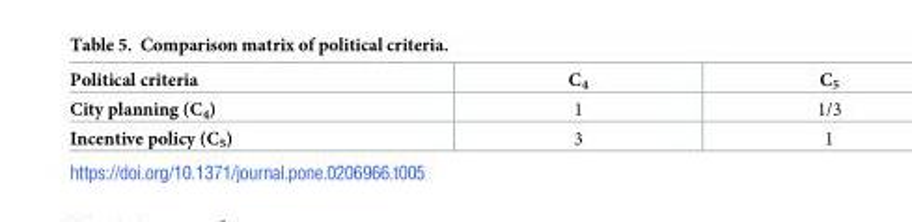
<table><thead><tr><td>Political criteria</td><td>C<sub>4</sub></td><td>C<sub>5</sub></td></tr></thead><tbody><tr><td>City planning (C<sub>4</sub>)</td><td>1</td><td>1/3</td></tr><tr><td>Incentive policy (C<sub>5</sub>)</td><td>3</td><td>1</td></tr></tbody></table>